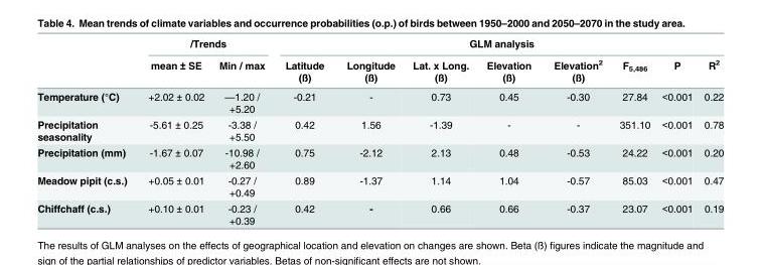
<table><thead><tr><td rowspan="2"></td><td colspan="2">/Trends</td><td colspan="8">GLM analysis</td></tr><tr><td>mean ± SE</td><td>Min / max</td><td>Latitude (ß)</td><td>Longitude (ß)</td><td>Lat. x Long. (ß)</td><td>Elevation (ß)</td><td>Elevation<sup>2</sup> (ß)</td><td>F<sub>5,486</sub></td><td>P</td><td>R<sup>2</sup></td></tr></thead><tbody><tr><td>Temperature (°C)</td><td>+2.02 ± 0.02</td><td>—1.20 / +5.20</td><td>-0.21</td><td>-</td><td>0.73</td><td>0.45</td><td>-0.30</td><td>27.84</td><td>&lt;0.001</td><td>0.22</td></tr><tr><td>Precipitation seasonality</td><td>-5.61 ± 0.25</td><td>-3.38 / +5.50</td><td>0.42</td><td>1.56</td><td>-1.39</td><td>-</td><td>-</td><td>351.10</td><td>&lt;0.001</td><td>0.78</td></tr><tr><td>Precipitation (mm)</td><td>-1.67 ± 0.07</td><td>-10.98 / +2.60</td><td>0.75</td><td>-2.12</td><td>2.13</td><td>0.48</td><td>-0.53</td><td>24.22</td><td>&lt;0.001</td><td>0.20</td></tr><tr><td>Meadow pipit (c.s.)</td><td>+0.05 ± 0.01</td><td>-0.27 / +0.49</td><td>0.89</td><td>-1.37</td><td>1.14</td><td>1.04</td><td>-0.57</td><td>85.03</td><td>&lt;0.001</td><td>0.47</td></tr><tr><td>Chiffchaff (c.s.)</td><td>+0.10 ± 0.01</td><td>-0.23 / +0.39</td><td>0.42</td><td>-</td><td>0.66</td><td>0.66</td><td>-0.37</td><td>23.07</td><td>&lt;0.001</td><td>0.19</td></tr></tbody></table>